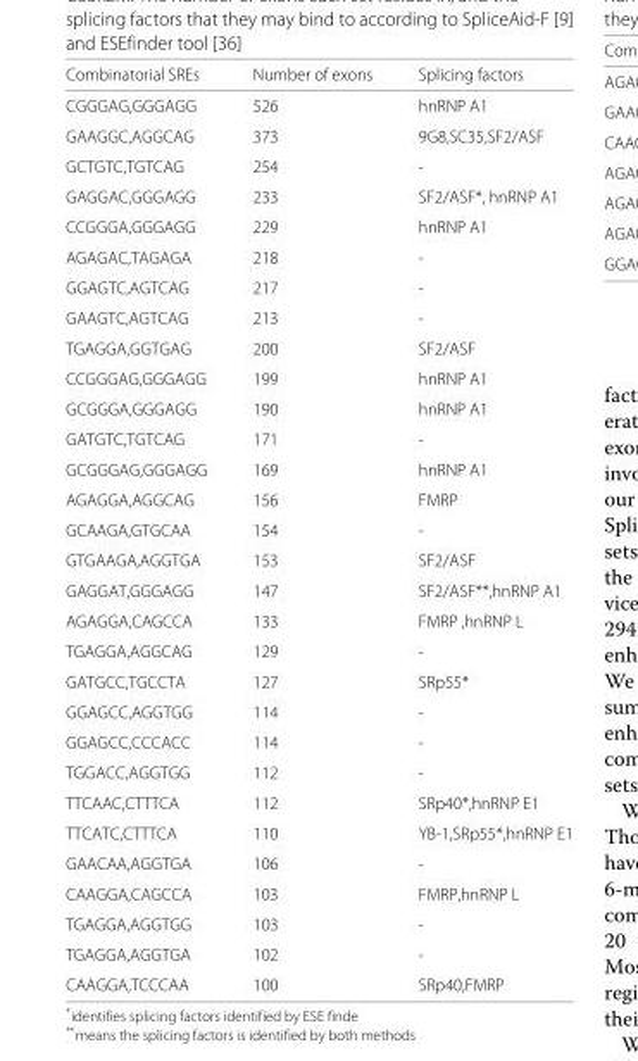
<table><thead><tr><td>Combinatorial SREs</td><td>Number of exons</td><td>Splicing factors</td></tr></thead><tbody><tr><td>CGGGAG,GGGAGG</td><td>526</td><td>hnRNP A1</td></tr><tr><td>GAAGGC,AGGCAG</td><td>373</td><td>9G8,SC35,SF2/ASF</td></tr><tr><td>GCTGTC,TGTCAG</td><td>254</td><td>-</td></tr><tr><td>GAGGAC,GGGAGG</td><td>233</td><td>SF2/ASF*, hnRNP A1</td></tr><tr><td>CCGGGA,GGGAGG</td><td>229</td><td>hnRNP A1</td></tr><tr><td>AGAGAC,TAGAGA</td><td>218</td><td>-</td></tr><tr><td>GGAGTC,AGTCAG</td><td>217</td><td>-</td></tr><tr><td>GAAGTC,AGTCAG</td><td>213</td><td>-</td></tr><tr><td>TGAGGA,GGTGAG</td><td>200</td><td>SF2/ASF</td></tr><tr><td>CCGGGAG,GGGAGG</td><td>199</td><td>hnRNP A1</td></tr><tr><td>GCGGGA,GGGAGG</td><td>190</td><td>hnRNP A1</td></tr><tr><td>GATGTC,TGTCAG</td><td>171</td><td>-</td></tr><tr><td>GCGGGAG,GGGAGG</td><td>169</td><td>hnRNP A1</td></tr><tr><td>AGAGGA,AGGCAG</td><td>156</td><td>FMRP</td></tr><tr><td>GCAAGA,GTGCAA</td><td>154</td><td>-</td></tr><tr><td>GTGAAGA,AGGTGA</td><td>153</td><td>SF2/ASF</td></tr><tr><td>GAGGAT,GGGAGG</td><td>147</td><td>SF2/ASF**,hnRNP A1</td></tr><tr><td>AGAGGA,CAGCCA</td><td>133</td><td>FMRP ,hnRNP L</td></tr><tr><td>TGAGGA,AGGCAG</td><td>129</td><td>-</td></tr><tr><td>GATGCC,TGCCTA</td><td>127</td><td>SRp55*</td></tr><tr><td>GGAGCC,AGGTGG</td><td>114</td><td>-</td></tr><tr><td>GGAGCC,CCCACC</td><td>114</td><td>-</td></tr><tr><td>TGGACC,AGGTGG</td><td>112</td><td>-</td></tr><tr><td>TTCAAC,CTTTCA</td><td>112</td><td>SRp40*,hnRNP E1</td></tr><tr><td>TTCATC,CTTTCA</td><td>110</td><td>YB-1,SRp55*,hnRNP E1</td></tr><tr><td>GAACAA,AGGTGA</td><td>106</td><td>-</td></tr><tr><td>CAAGGA,CAGCCA</td><td>103</td><td>FMRP,hnRNP L</td></tr><tr><td>TGAGGA,AGGTGG</td><td>103</td><td>-</td></tr><tr><td>TGAGGA,AGGTGA</td><td>102</td><td>-</td></tr><tr><td>CAAGGA,TCCCAA</td><td>100</td><td>SRp40,FMRP</td></tr></tbody></table>